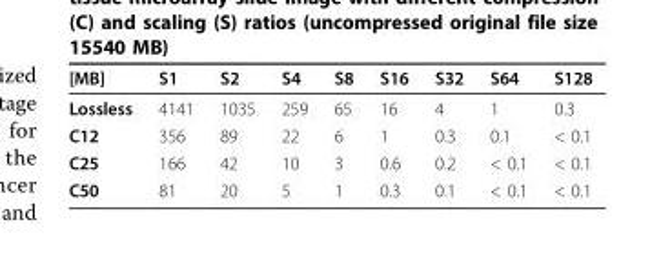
<table><thead><tr><td>[MB]</td><td>S1</td><td>S2</td><td>S4</td><td>S8</td><td>S16</td><td>S32</td><td>S64</td><td>S128</td></tr></thead><tbody><tr><td>Lossless</td><td>4141</td><td>1035</td><td>259</td><td>65</td><td>16</td><td>4</td><td>1</td><td>0.3</td></tr><tr><td>C12</td><td>356</td><td>89</td><td>22</td><td>6</td><td>1</td><td>0.3</td><td>0.1</td><td>&lt; 0.1</td></tr><tr><td>C25</td><td>166</td><td>42</td><td>10</td><td>3</td><td>0.6</td><td>0.2</td><td>&lt; 0.1</td><td>&lt; 0.1</td></tr><tr><td>C50</td><td>81</td><td>20</td><td>5</td><td>1</td><td>0.3</td><td>0.1</td><td>&lt; 0.1</td><td>&lt; 0.1</td></tr></tbody></table>